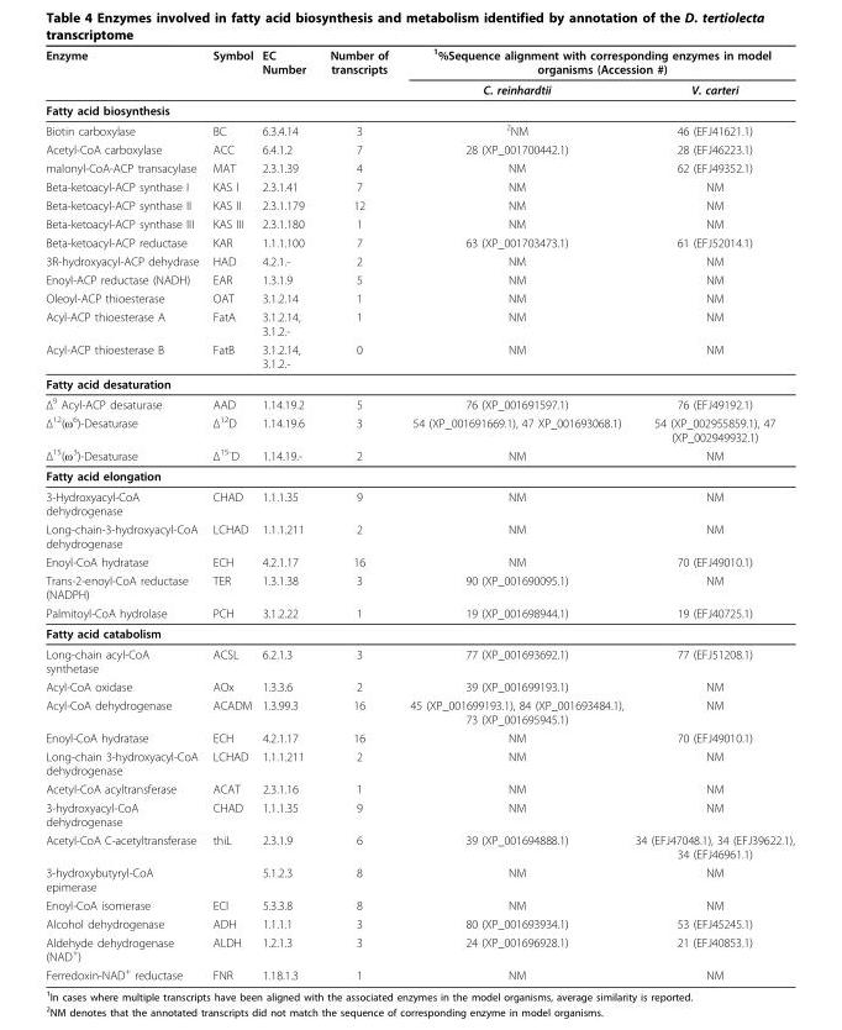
<table><thead><tr><td rowspan="2">Enzyme</td><td rowspan="2">Symbol</td><td rowspan="2">EC Number</td><td rowspan="2">Number of transcripts</td><td colspan="2"><sup>1</sup>%Sequence alignment with corresponding enzymes in model organisms (Accession #)</td></tr><tr><td>C. reinhardtii</td><td>V. carteri</td></tr></thead><tbody><tr><td colspan="6">Fatty acid biosynthesis</td></tr><tr><td>Biotin carboxylase</td><td>BC</td><td>6.3.4.14</td><td>3</td><td><sup>2</sup>NM</td><td>46 (EFJ41621.1)</td></tr><tr><td>Acetyl-CoA carboxylase</td><td>ACC</td><td>6.4.1.2</td><td>7</td><td>28 (XP_001700442.1)</td><td>28 (EFJ46223.1)</td></tr><tr><td>malonyl-CoA-ACP transacylase</td><td>MAT</td><td>2.3.1.39</td><td>4</td><td>NM</td><td>62 (EFJ49352.1)</td></tr><tr><td>Beta-ketoacyl-ACP synthase I</td><td>KAS I</td><td>2.3.1.41</td><td>7</td><td>NM</td><td>NM</td></tr><tr><td>Beta-ketoacyl-ACP synthase II</td><td>KAS II</td><td>2.3.1.179</td><td>12</td><td>NM</td><td>NM</td></tr><tr><td>Beta-ketoacyl-ACP synthase III</td><td>KAS III</td><td>2.3.1.180</td><td>1</td><td>NM</td><td>NM</td></tr><tr><td>Beta-ketoacyl-ACP reductase</td><td>KAR</td><td>1.1.1.100</td><td>7</td><td>63 (XP_001703473.1)</td><td>61 (EFJ52014.1)</td></tr><tr><td>3R-hydroxyacyl-ACP dehydrase</td><td>HAD</td><td>4.2.1.-</td><td>2</td><td>NM</td><td>NM</td></tr><tr><td>Enoyl-ACP reductase (NADH)</td><td>EAR</td><td>1.3.1.9</td><td>5</td><td>NM</td><td>NM</td></tr><tr><td>Oleoyl-ACP thioesterase</td><td>OAT</td><td>3.1.2.14</td><td>1</td><td>NM</td><td>NM</td></tr><tr><td>Acyl-ACP thioesterase A</td><td>FatA</td><td>3.1.2.14, 3.1.2.-</td><td>1</td><td>NM</td><td>NM</td></tr><tr><td>Acyl-ACP thioesterase B</td><td>FatB</td><td>3.1.2.14, 3.1.2.-</td><td>0</td><td>NM</td><td>NM</td></tr><tr><td colspan="6">Fatty acid desaturation</td></tr><tr><td>Δ<sup>9</sup> Acyl-ACP desaturase</td><td>AAD</td><td>1.14.19.2</td><td>5</td><td>76 (XP_001691597.1)</td><td>76 (EFJ49192.1)</td></tr><tr><td>Δ<sup>12</sup>(ω<sup>6</sup>)-Desaturase</td><td>Δ<sup>12</sup>D</td><td>1.14.19.6</td><td>3</td><td>54 (XP_001691669.1), 47 XP_001693068.1)</td><td>54 (XP_002955859.1), 47 (XP_002949932.1)</td></tr><tr><td>Δ<sup>15</sup>(ω<sup>3</sup>)-Desaturase</td><td>Δ<sup>15-</sup>D</td><td>1.14.19.-</td><td>2</td><td>NM</td><td>NM</td></tr><tr><td colspan="6">Fatty acid elongation</td></tr><tr><td>3-Hydroxyacyl-CoA dehydrogenase</td><td>CHAD</td><td>1.1.1.35</td><td>9</td><td>NM</td><td>NM</td></tr><tr><td>Long-chain-3-hydroxyacyl-CoA dehydrogenase</td><td>LCHAD</td><td>1.1.1.211</td><td>2</td><td>NM</td><td>NM</td></tr><tr><td>Enoyl-CoA hydratase</td><td>ECH</td><td>4.2.1.17</td><td>16</td><td>NM</td><td>70 (EFJ49010.1)</td></tr><tr><td>Trans-2-enoyl-CoA reductase (NADPH)</td><td>TER</td><td>1.3.1.38</td><td>3</td><td>90 (XP_001690095.1)</td><td>NM</td></tr><tr><td>Palmitoyl-CoA hydrolase</td><td>PCH</td><td>3.1.2.22</td><td>1</td><td>19 (XP_001698944.1)</td><td>19 (EFJ40725.1)</td></tr><tr><td colspan="6">Fatty acid catabolism</td></tr><tr><td>Long-chain acyl-CoA synthetase</td><td>ACSL</td><td>6.2.1.3</td><td>3</td><td>77 (XP_001693692.1)</td><td>77 (EFJ51208.1)</td></tr><tr><td>Acyl-CoA oxidase</td><td>AOx</td><td>1.3.3.6</td><td>2</td><td>39 (XP_001699193.1)</td><td>NM</td></tr><tr><td>Acyl-CoA dehydrogenase</td><td>ACADM</td><td>1.3.99.3</td><td>16</td><td>45 (XP_001699193.1), 84 (XP_001693484.1), 73 (XP_001695945.1)</td><td>NM</td></tr><tr><td>Enoyl-CoA hydratase</td><td>ECH</td><td>4.2.1.17</td><td>16</td><td>NM</td><td>70 (EFJ49010.1)</td></tr><tr><td>Long-chain 3-hydroxyacyl-CoA dehydrogenase</td><td>LCHAD</td><td>1.1.1.211</td><td>2</td><td>NM</td><td>NM</td></tr><tr><td>Acetyl-CoA acyltransferase</td><td>ACAT</td><td>2.3.1.16</td><td>1</td><td>NM</td><td>NM</td></tr><tr><td>3-hydroxyacyl-CoA dehydrogenase</td><td>CHAD</td><td>1.1.1.35</td><td>9</td><td>NM</td><td>NM</td></tr><tr><td>Acetyl-CoA C-acetyltransferase</td><td>thiL</td><td>2.3.1.9</td><td>6</td><td>39 (XP_001694888.1)</td><td>34 (EFJ47048.1), 34 (EFJ39622.1), 34 (EFJ46961.1)</td></tr><tr><td>3-hydroxybutyryl-CoA epimerase</td><td></td><td>5.1.2.3</td><td>8</td><td>NM</td><td>NM</td></tr><tr><td>Enoyl-CoA isomerase</td><td>ECI</td><td>5.3.3.8</td><td>8</td><td>NM</td><td>NM</td></tr><tr><td>Alcohol dehydrogenase</td><td>ADH</td><td>1.1.1.1</td><td>3</td><td>80 (XP_001693934.1)</td><td>53 (EFJ45245.1)</td></tr><tr><td>Aldehyde dehydrogenase (NAD<sup>+</sup>)</td><td>ALDH</td><td>1.2.1.3</td><td>3</td><td>24 (XP_001696928.1)</td><td>21 (EFJ40853.1)</td></tr><tr><td>Ferredoxin-NAD<sup>+</sup> reductase</td><td>FNR</td><td>1.18.1.3</td><td>1</td><td>NM</td><td>NM</td></tr></tbody></table>